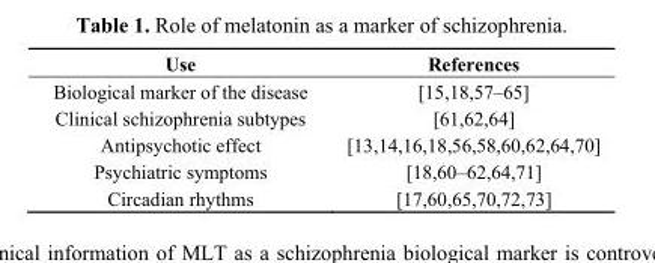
<table><thead><tr><td>Use</td><td>References</td></tr></thead><tbody><tr><td>Biological marker of the disease</td><td>[15,18,57–65]</td></tr><tr><td>Clinical schizophrenia subtypes</td><td>[61,62,64]</td></tr><tr><td>Antipsychotic effect</td><td>[13,14,16,18,56,58,60,62,64,70]</td></tr><tr><td>Psychiatric symptoms</td><td>[18,60–62,64,71]</td></tr><tr><td>Circadian rhythms</td><td>[17,60,65,70,72,73]</td></tr></tbody></table>